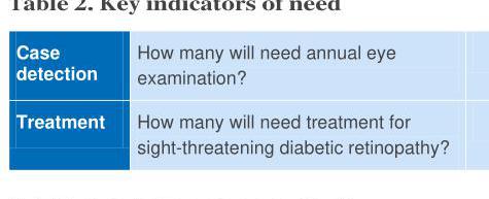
<table><tbody><tr><td>Case detection</td><td>How many will need annual eye examination?</td></tr><tr><td>Treatment</td><td>How many will need treatment for sight-threatening diabetic retinopathy?</td></tr></tbody></table>